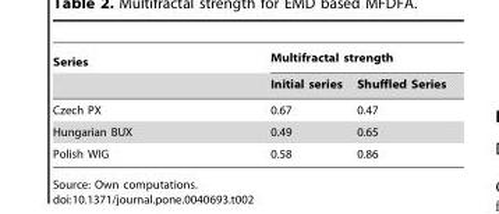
<table><thead><tr><td rowspan="2">Series</td><td colspan="2">Multifractal strength</td></tr><tr><td>Initial series</td><td>Shuffled Series</td></tr></thead><tbody><tr><td>Czech PX</td><td>0.67</td><td>0.47</td></tr><tr><td>Hungarian BUX</td><td>0.49</td><td>0.65</td></tr><tr><td>Polish WIG</td><td>0.58</td><td>0.86</td></tr></tbody></table>